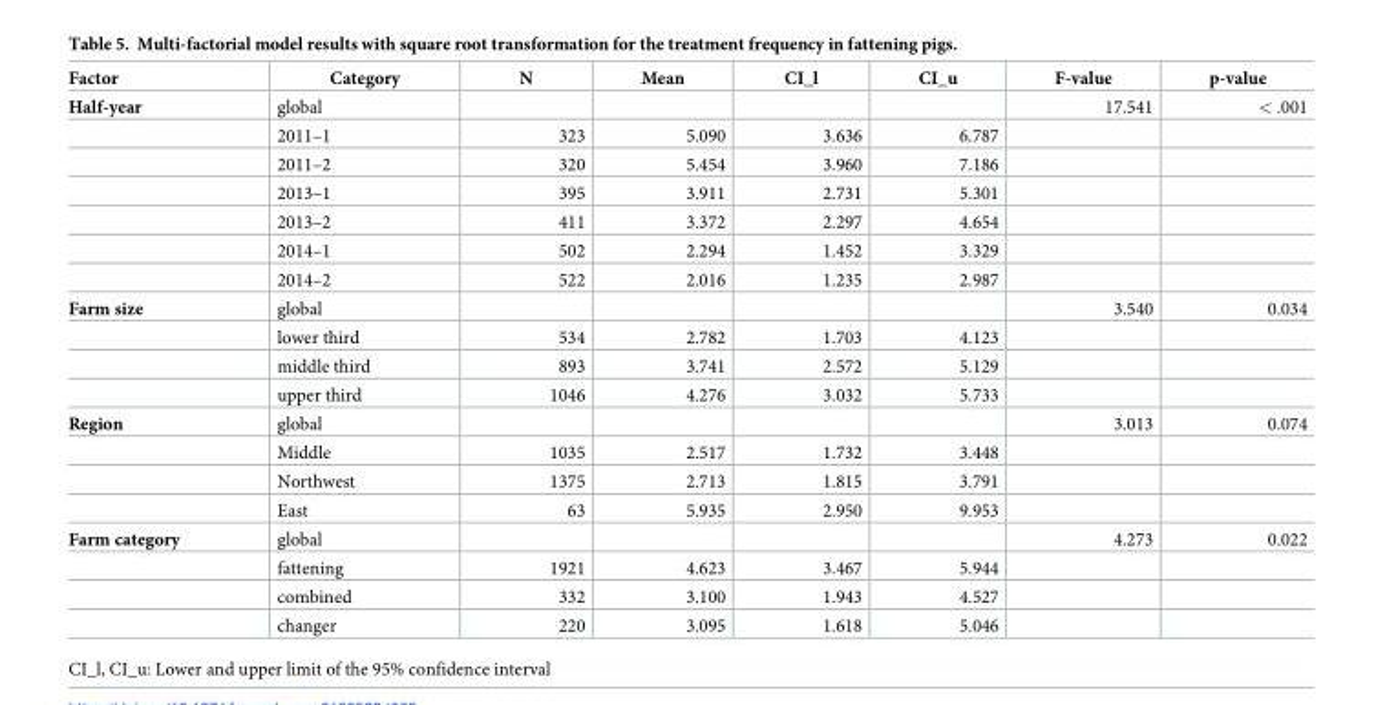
<table><thead><tr><td>Factor</td><td>Category</td><td>N</td><td>Mean</td><td>CI_l</td><td>CI_u</td><td>F-value</td><td>p-value</td></tr></thead><tbody><tr><td rowspan="7">Half-year</td><td>global</td><td></td><td></td><td></td><td></td><td>17.541</td><td>&lt; .001</td></tr><tr><td>2011–1</td><td>323</td><td>5.090</td><td>3.636</td><td>6.787</td><td></td><td></td></tr><tr><td>2011–2</td><td>320</td><td>5.454</td><td>3.960</td><td>7.186</td><td></td><td></td></tr><tr><td>2013–1</td><td>395</td><td>3.911</td><td>2.731</td><td>5.301</td><td></td><td></td></tr><tr><td>2013–2</td><td>411</td><td>3.372</td><td>2.297</td><td>4.654</td><td></td><td></td></tr><tr><td>2014–1</td><td>502</td><td>2.294</td><td>1.452</td><td>3.329</td><td></td><td></td></tr><tr><td>2014–2</td><td>522</td><td>2.016</td><td>1.235</td><td>2.987</td><td></td><td></td></tr><tr><td rowspan="4">Farm size</td><td>global</td><td></td><td></td><td></td><td></td><td>3.540</td><td>0.034</td></tr><tr><td>lower third</td><td>534</td><td>2.782</td><td>1.703</td><td>4.123</td><td></td><td></td></tr><tr><td>middle third</td><td>893</td><td>3.741</td><td>2.572</td><td>5.129</td><td></td><td></td></tr><tr><td>upper third</td><td>1046</td><td>4.276</td><td>3.032</td><td>5.733</td><td></td><td></td></tr><tr><td rowspan="4">Region</td><td>global</td><td></td><td></td><td></td><td></td><td>3.013</td><td>0.074</td></tr><tr><td>Middle</td><td>1035</td><td>2.517</td><td>1.732</td><td>3.448</td><td></td><td></td></tr><tr><td>Northwest</td><td>1375</td><td>2.713</td><td>1.815</td><td>3.791</td><td></td><td></td></tr><tr><td>East</td><td>63</td><td>5.935</td><td>2.950</td><td>9.953</td><td></td><td></td></tr><tr><td rowspan="4">Farm category</td><td>global</td><td></td><td></td><td></td><td></td><td>4.273</td><td>0.022</td></tr><tr><td>fattening</td><td>1921</td><td>4.623</td><td>3.467</td><td>5.944</td><td></td><td></td></tr><tr><td>combined</td><td>332</td><td>3.100</td><td>1.943</td><td>4.527</td><td></td><td></td></tr><tr><td>changer</td><td>220</td><td>3.095</td><td>1.618</td><td>5.046</td><td></td><td></td></tr></tbody></table>